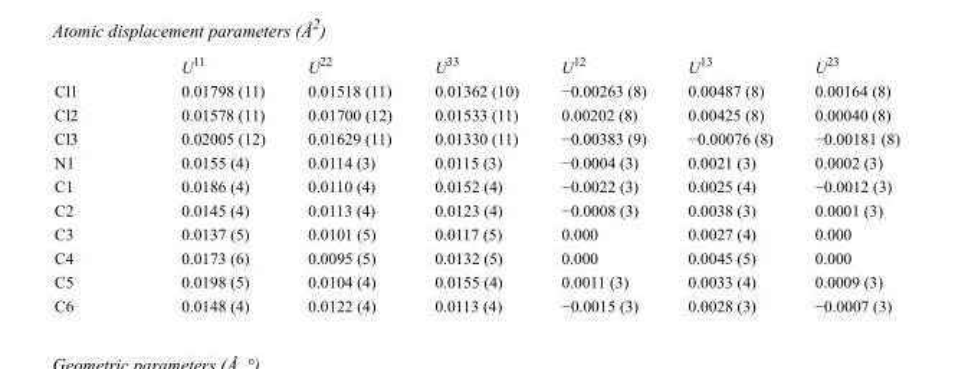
<table><thead><tr><td></td><td>U<sup>11</sup></td><td>U<sup>22</sup></td><td>U<sup>33</sup></td><td>U<sup>12</sup></td><td>U<sup>13</sup></td><td>U<sup>23</sup></td></tr></thead><tbody><tr><td>Cl1</td><td>0.01798 (11)</td><td>0.01518 (11)</td><td>0.01362 (10)</td><td>−0.00263 (8)</td><td>0.00487 (8)</td><td>0.00164 (8)</td></tr><tr><td>Cl2</td><td>0.01578 (11)</td><td>0.01700 (12)</td><td>0.01533 (11)</td><td>0.00202 (8)</td><td>0.00425 (8)</td><td>0.00040 (8)</td></tr><tr><td>Cl3</td><td>0.02005 (12)</td><td>0.01629 (11)</td><td>0.01330 (11)</td><td>−0.00383 (9)</td><td>−0.00076 (8)</td><td>−0.00181 (8)</td></tr><tr><td>N1</td><td>0.0155 (4)</td><td>0.0114 (3)</td><td>0.0115 (3)</td><td>−0.0004 (3)</td><td>0.0021 (3)</td><td>0.0002 (3)</td></tr><tr><td>C1</td><td>0.0186 (4)</td><td>0.0110 (4)</td><td>0.0152 (4)</td><td>−0.0022 (3)</td><td>0.0025 (4)</td><td>−0.0012 (3)</td></tr><tr><td>C2</td><td>0.0145 (4)</td><td>0.0113 (4)</td><td>0.0123 (4)</td><td>−0.0008 (3)</td><td>0.0038 (3)</td><td>0.0001 (3)</td></tr><tr><td>C3</td><td>0.0137 (5)</td><td>0.0101 (5)</td><td>0.0117 (5)</td><td>0.000</td><td>0.0027 (4)</td><td>0.000</td></tr><tr><td>C4</td><td>0.0173 (6)</td><td>0.0095 (5)</td><td>0.0132 (5)</td><td>0.000</td><td>0.0045 (5)</td><td>0.000</td></tr><tr><td>C5</td><td>0.0198 (5)</td><td>0.0104 (4)</td><td>0.0155 (4)</td><td>0.0011 (3)</td><td>0.0033 (4)</td><td>0.0009 (3)</td></tr><tr><td>C6</td><td>0.0148 (4)</td><td>0.0122 (4)</td><td>0.0113 (4)</td><td>−0.0015 (3)</td><td>0.0028 (3)</td><td>−0.0007 (3)</td></tr></tbody></table>